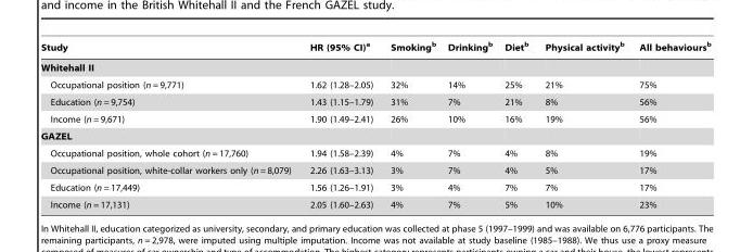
<table><thead><tr><td>Study</td><td>HR (95% CI)<sup>a</sup></td><td>Smoking<sup>b</sup></td><td>Drinking<sup>b</sup></td><td>Diet<sup>b</sup></td><td>Physical activity<sup>b</sup></td><td>All behaviours<sup>b</sup></td></tr></thead><tbody><tr><td colspan="7">Whitehall II</td></tr><tr><td>Occupational position (n = 9,771)</td><td>1.62 (1.28–2.05)</td><td>32%</td><td>14%</td><td>25%</td><td>21%</td><td>75%</td></tr><tr><td>Education (n = 9,754)</td><td>1.43 (1.15–1.79)</td><td>31%</td><td>7%</td><td>21%</td><td>8%</td><td>56%</td></tr><tr><td>Income (n = 9,671)</td><td>1.90 (1.49–2.41)</td><td>26%</td><td>10%</td><td>16%</td><td>19%</td><td>56%</td></tr><tr><td colspan="7">GAZEL</td></tr><tr><td>Occupational position, whole cohort (n = 17,760)</td><td>1.94 (1.58–2.39)</td><td>4%</td><td>7%</td><td>4%</td><td>8%</td><td>19%</td></tr><tr><td>Occupational position, white-collar workers only (n = 8,079)</td><td>2.26 (1.63–3.13)</td><td>3%</td><td>7%</td><td>4%</td><td>5%</td><td>17%</td></tr><tr><td>Education (n = 17,449)</td><td>1.56 (1.26–1.91)</td><td>3%</td><td>4%</td><td>7%</td><td>7%</td><td>17%</td></tr><tr><td>Income (n = 17,131)</td><td>2.05 (1.60–2.63)</td><td>4%</td><td>7%</td><td>5%</td><td>10%</td><td>23%</td></tr></tbody></table>